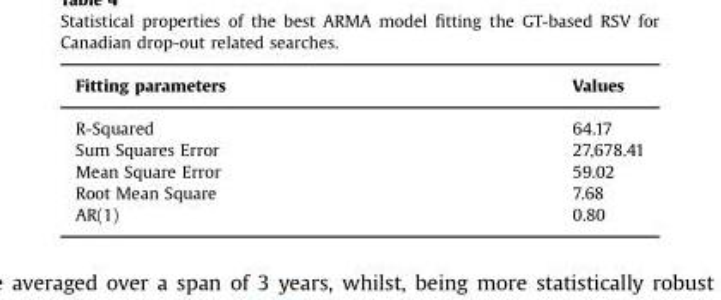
<table><thead><tr><td>Fitting parameters</td><td>Values</td></tr></thead><tbody><tr><td>R-Squared</td><td>64.17</td></tr><tr><td>Sum Squares Error</td><td>27,678.41</td></tr><tr><td>Mean Square Error</td><td>59.02</td></tr><tr><td>Root Mean Square</td><td>7.68</td></tr><tr><td>AR(1)</td><td>0.80</td></tr></tbody></table>